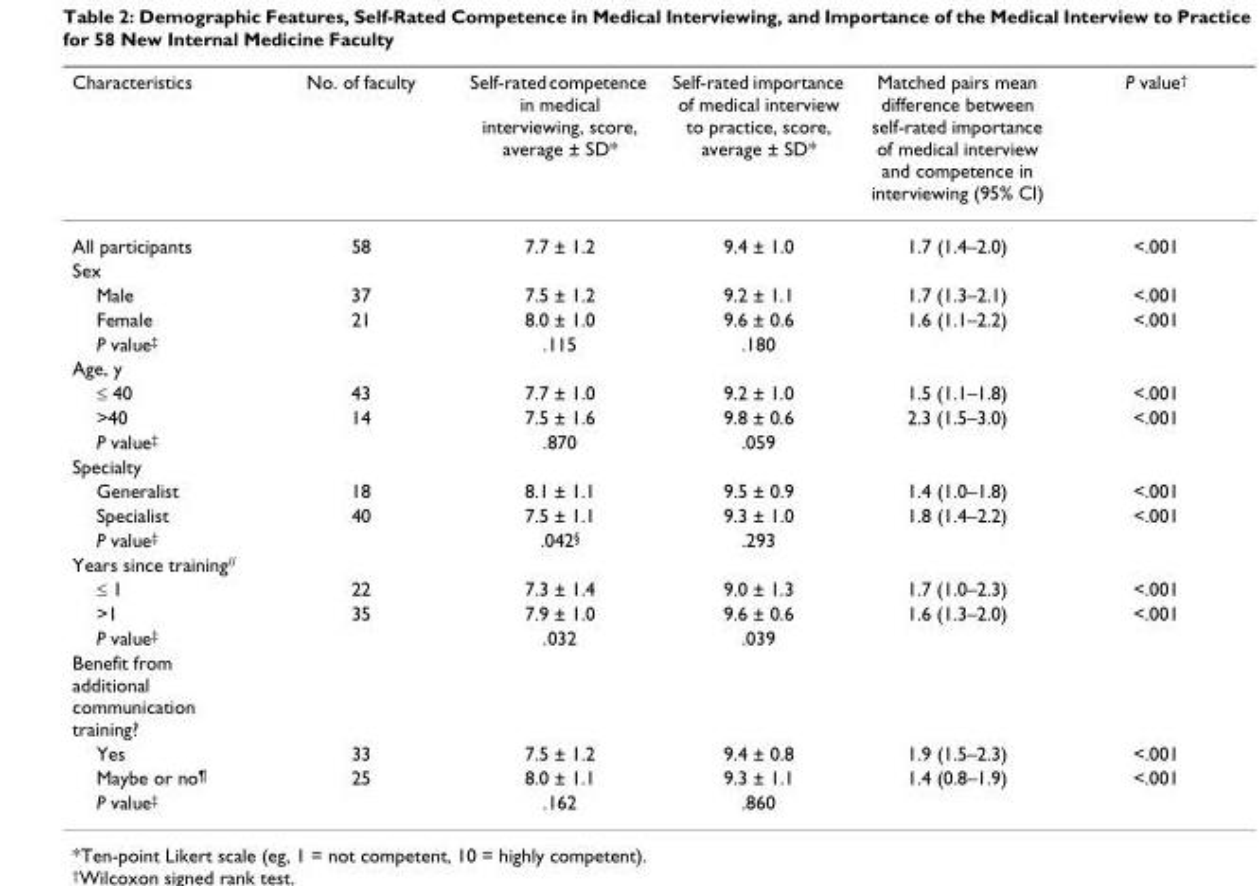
<table><thead><tr><td>Characteristics</td><td>No. of faculty</td><td>Self-rated competence in medical interviewing, score, average ± SD*</td><td>Self-rated importance of medical interview to practice, score, average ± SD*</td><td>Matched pairs mean difference between self-rated importance of medical interview and competence in interviewing (95% CI)</td><td>P value†</td></tr></thead><tbody><tr><td>All participants</td><td>58</td><td>7.7 ± 1.2</td><td>9.4 ± 1.0</td><td>1.7 (1.4–2.0)</td><td>&lt;.001</td></tr><tr><td colspan="6">Sex</td></tr><tr><td>Male</td><td>37</td><td>7.5 ± 1.2</td><td>9.2 ± 1.1</td><td>1.7 (1.3–2.1)</td><td>&lt;.001</td></tr><tr><td>Female</td><td>21</td><td>8.0 ± 1.0</td><td>9.6 ± 0.6</td><td>1.6 (1.1–2.2)</td><td>&lt;.001</td></tr><tr><td>P value‡</td><td></td><td>.115</td><td>.180</td><td></td><td></td></tr><tr><td colspan="6">Age, y</td></tr><tr><td>≤ 40</td><td>43</td><td>7.7 ± 1.0</td><td>9.2 ± 1.0</td><td>1.5 (1.1–1.8)</td><td>&lt;.001</td></tr><tr><td>&gt;40</td><td>14</td><td>7.5 ± 1.6</td><td>9.8 ± 0.6</td><td>2.3 (1.5–3.0)</td><td>&lt;.001</td></tr><tr><td>P value‡</td><td></td><td>.870</td><td>.059</td><td></td><td></td></tr><tr><td colspan="6">Specialty</td></tr><tr><td>Generalist</td><td>18</td><td>8.1 ± 1.1</td><td>9.5 ± 0.9</td><td>1.4 (1.0–1.8)</td><td>&lt;.001</td></tr><tr><td>Specialist</td><td>40</td><td>7.5 ± 1.1</td><td>9.3 ± 1.0</td><td>1.8 (1.4–2.2)</td><td>&lt;.001</td></tr><tr><td>P value‡</td><td></td><td>.042§</td><td>.293</td><td></td><td></td></tr><tr><td colspan="6">Years since training//</td></tr><tr><td>≤ 1</td><td>22</td><td>7.3 ± 1.4</td><td>9.0 ± 1.3</td><td>1.7 (1.0–2.3)</td><td>&lt;.001</td></tr><tr><td>&gt;1</td><td>35</td><td>7.9 ± 1.0</td><td>9.6 ± 0.6</td><td>1.6 (1.3–2.0)</td><td>&lt;.001</td></tr><tr><td>P value‡</td><td></td><td>.032</td><td>.039</td><td></td><td></td></tr><tr><td colspan="6">Benefit from additional communication training?</td></tr><tr><td>Yes</td><td>33</td><td>7.5 ± 1.2</td><td>9.4 ± 0.8</td><td>1.9 (1.5–2.3)</td><td>&lt;.001</td></tr><tr><td>Maybe or no¶</td><td>25</td><td>8.0 ± 1.1</td><td>9.3 ± 1.1</td><td>1.4 (0.8–1.9)</td><td>&lt;.001</td></tr><tr><td>P value‡</td><td></td><td>.162</td><td>.860</td><td></td><td></td></tr></tbody></table>